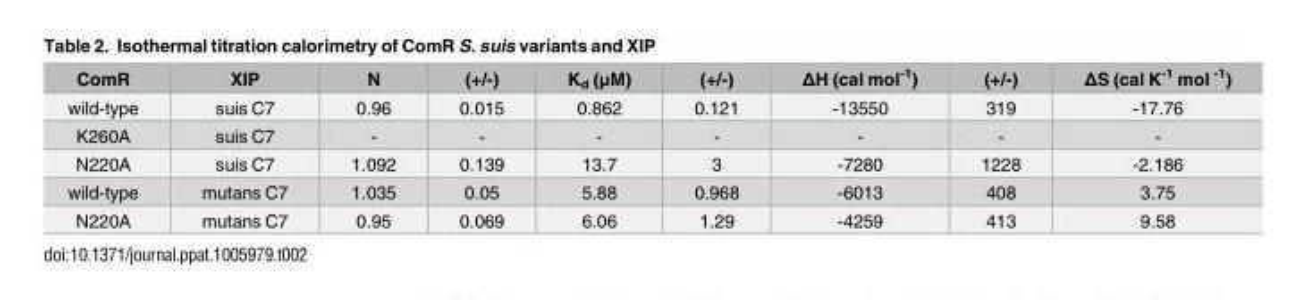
<table><thead><tr><td>ComR</td><td>XIP</td><td>N</td><td>(+/-)</td><td>K<sub>d</sub> (μM)</td><td>(+/-)</td><td>ΔH (cal mol<sup>-1</sup>)</td><td>(+/-)</td><td>ΔS (cal K<sup>-1</sup> mol <sup>-1</sup>)</td></tr></thead><tbody><tr><td>wild-type</td><td>suis C7</td><td>0.96</td><td>0.015</td><td>0.862</td><td>0.121</td><td>-13550</td><td>319</td><td>-17.76</td></tr><tr><td>K260A</td><td>suis C7</td><td>-</td><td>-</td><td>-</td><td>-</td><td>-</td><td>-</td><td>-</td></tr><tr><td>N220A</td><td>suis C7</td><td>1.092</td><td>0.139</td><td>13.7</td><td>3</td><td>-7280</td><td>1228</td><td>-2.186</td></tr><tr><td>wild-type</td><td>mutans C7</td><td>1.035</td><td>0.05</td><td>5.88</td><td>0.968</td><td>-6013</td><td>408</td><td>3.75</td></tr><tr><td>N220A</td><td>mutans C7</td><td>0.95</td><td>0.069</td><td>6.06</td><td>1.29</td><td>-4259</td><td>413</td><td>9.58</td></tr></tbody></table>